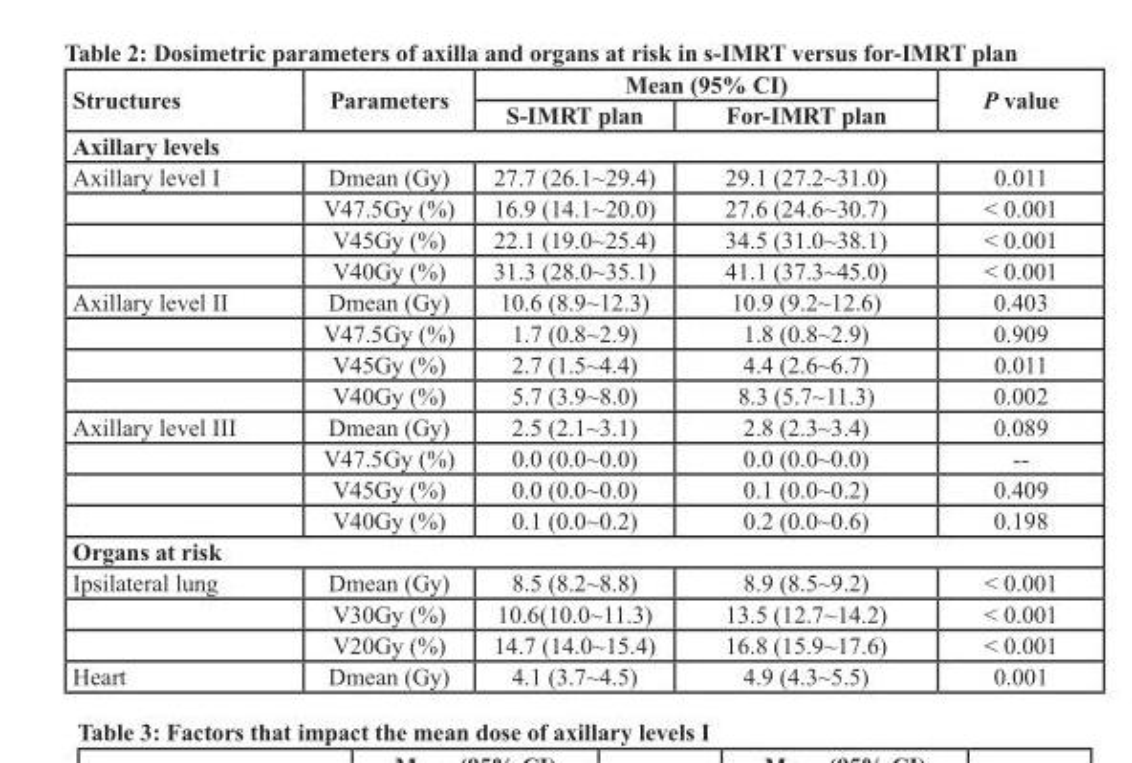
<table><thead><tr><td rowspan="2">Structures</td><td rowspan="2">Parameters</td><td colspan="2">Mean (95% CI)</td><td rowspan="2">P value</td></tr><tr><td>S-IMRT plan</td><td>For-IMRT plan</td></tr></thead><tbody><tr><td colspan="5">Axillary levels</td></tr><tr><td rowspan="4">Axillary level I</td><td>Dmean (Gy)</td><td>27.7 (26.1~29.4)</td><td>29.1 (27.2~31.0)</td><td>0.011</td></tr><tr><td>V47.5Gy (%)</td><td>16.9 (14.1~20.0)</td><td>27.6 (24.6~30.7)</td><td>&lt; 0.001</td></tr><tr><td>V45Gy (%)</td><td>22.1 (19.0~25.4)</td><td>34.5 (31.0~38.1)</td><td>&lt; 0.001</td></tr><tr><td>V40Gy (%)</td><td>31.3 (28.0~35.1)</td><td>41.1 (37.3~45.0)</td><td>&lt; 0.001</td></tr><tr><td rowspan="4">Axillary level II</td><td>Dmean (Gy)</td><td>10.6 (8.9~12.3)</td><td>10.9 (9.2~12.6)</td><td>0.403</td></tr><tr><td>V47.5Gy (%)</td><td>1.7 (0.8~2.9)</td><td>1.8 (0.8~2.9)</td><td>0.909</td></tr><tr><td>V45Gy (%)</td><td>2.7 (1.5~4.4)</td><td>4.4 (2.6~6.7)</td><td>0.011</td></tr><tr><td>V40Gy (%)</td><td>5.7 (3.9~8.0)</td><td>8.3 (5.7~11.3)</td><td>0.002</td></tr><tr><td rowspan="4">Axillary level III</td><td>Dmean (Gy)</td><td>2.5 (2.1~3.1)</td><td>2.8 (2.3~3.4)</td><td>0.089</td></tr><tr><td>V47.5Gy (%)</td><td>0.0 (0.0~0.0)</td><td>0.0 (0.0~0.0)</td><td>--</td></tr><tr><td>V45Gy (%)</td><td>0.0 (0.0~0.0)</td><td>0.1 (0.0~0.2)</td><td>0.409</td></tr><tr><td>V40Gy (%)</td><td>0.1 (0.0~0.2)</td><td>0.2 (0.0~0.6)</td><td>0.198</td></tr><tr><td colspan="5">Organs at risk</td></tr><tr><td rowspan="3">Ipsilateral lung</td><td>Dmean (Gy)</td><td>8.5 (8.2~8.8)</td><td>8.9 (8.5~9.2)</td><td>&lt; 0.001</td></tr><tr><td>V30Gy (%)</td><td>10.6(10.0~11.3)</td><td>13.5 (12.7~14.2)</td><td>&lt; 0.001</td></tr><tr><td>V20Gy (%)</td><td>14.7 (14.0~15.4)</td><td>16.8 (15.9~17.6)</td><td>&lt; 0.001</td></tr><tr><td>Heart</td><td>Dmean (Gy)</td><td>4.1 (3.7~4.5)</td><td>4.9 (4.3~5.5)</td><td>0.001</td></tr></tbody></table>